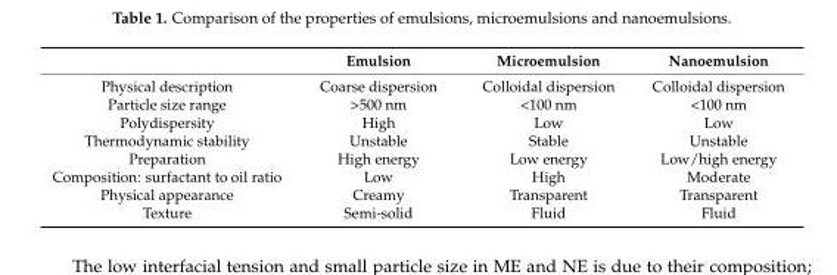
<table><thead><tr><td></td><td>Emulsion</td><td>Microemulsion</td><td>Nanoemulsion</td></tr></thead><tbody><tr><td>Physical description</td><td>Coarse dispersion</td><td>Colloidal dispersion</td><td>Colloidal dispersion</td></tr><tr><td>Particle size range</td><td>&gt;500 nm</td><td>&lt;100 nm</td><td>&lt;100 nm</td></tr><tr><td>Polydispersity</td><td>High</td><td>Low</td><td>Low</td></tr><tr><td>Thermodynamic stability</td><td>Unstable</td><td>Stable</td><td>Unstable</td></tr><tr><td>Preparation</td><td>High energy</td><td>Low energy</td><td>Low/high energy</td></tr><tr><td>Composition: surfactant to oil ratio</td><td>Low</td><td>High</td><td>Moderate</td></tr><tr><td>Physical appearance</td><td>Creamy</td><td>Transparent</td><td>Transparent</td></tr><tr><td>Texture</td><td>Semi-solid</td><td>Fluid</td><td>Fluid</td></tr></tbody></table>